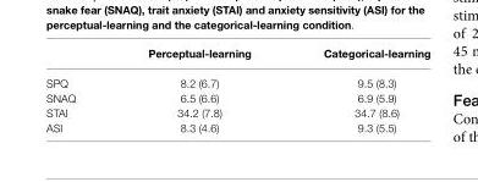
<table><thead><tr><td></td><td>Perceptual-learning</td><td>Categorical-learning</td></tr></thead><tbody><tr><td>SPQ</td><td>8.2 (6.7)</td><td>9.5 (8.3)</td></tr><tr><td>SNAQ</td><td>6.5 (6.6)</td><td>6.9 (5.9)</td></tr><tr><td>STAI</td><td>34.2 (7.8)</td><td>34.7 (8.6)</td></tr><tr><td>ASI</td><td>8.3 (4.6)</td><td>9.3 (5.5)</td></tr></tbody></table>